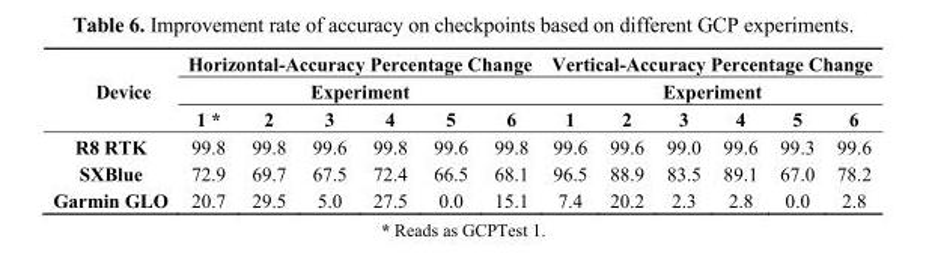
<table><thead><tr><td rowspan="3">Device</td><td rowspan="2" colspan="6">Horizontal-Accuracy Percentage Change Experiment</td><td rowspan="2" colspan="6">Vertical-Accuracy Percentage Change Experiment</td></tr><tr></tr><tr><td>1 *</td><td>2</td><td>3</td><td>4</td><td>5</td><td>6</td><td>1</td><td>2</td><td>3</td><td>4</td><td>5</td><td>6</td></tr></thead><tbody><tr><td>R8 RTK</td><td>99.8</td><td>99.8</td><td>99.6</td><td>99.8</td><td>99.6</td><td>99.8</td><td>99.6</td><td>99.6</td><td>99.0</td><td>99.6</td><td>99.3</td><td>99.6</td></tr><tr><td>SXBlue</td><td>72.9</td><td>69.7</td><td>67.5</td><td>72.4</td><td>66.5</td><td>68.1</td><td>96.5</td><td>88.9</td><td>83.5</td><td>89.1</td><td>67.0</td><td>78.2</td></tr><tr><td>Garmin GLO</td><td>20.7</td><td>29.5</td><td>5.0</td><td>27.5</td><td>0.0</td><td>15.1</td><td>7.4</td><td>20.2</td><td>2.3</td><td>2.8</td><td>0.0</td><td>2.8</td></tr></tbody></table>